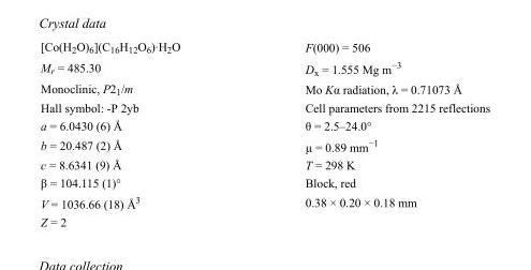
<table><tbody><tr><td>[Co(H<sub>2</sub>O)<sub>6</sub>](C<sub>16</sub>H<sub>12</sub>O<sub>6</sub>)·H<sub>2</sub>O</td><td>F(000) = 506</td></tr><tr><td>M<sub>r</sub> = 485.30</td><td>D<sub>x</sub> = 1.555 Mg m<sup>−3</sup></td></tr><tr><td>Monoclinic, P2<sub>1</sub>/m</td><td>Mo Kα radiation, λ = 0.71073 Å</td></tr><tr><td>Hall symbol: -P 2yb</td><td>Cell parameters from 2215 reflections</td></tr><tr><td>a = 6.0430 (6) Å</td><td>θ = 2.5–24.0°</td></tr><tr><td>b = 20.487 (2) Å</td><td>µ = 0.89 mm<sup>−1</sup></td></tr><tr><td>c = 8.6341 (9) Å</td><td>T = 298 K</td></tr><tr><td>β = 104.115 (1)°</td><td>Block, red</td></tr><tr><td>V = 1036.66 (18) Å<sup>3</sup></td><td>0.38 × 0.20 × 0.18 mm</td></tr><tr><td>Z = 2</td><td></td></tr></tbody></table>